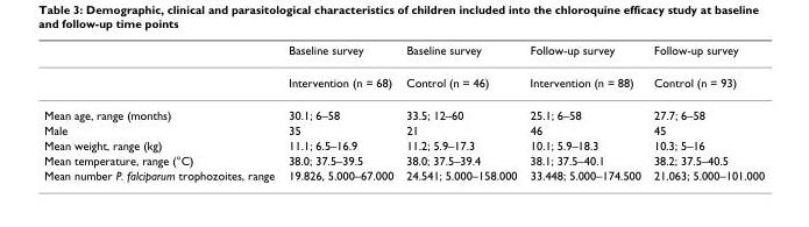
<table><thead><tr><td></td><td>Baseline survey</td><td>Baseline survey</td><td>Follow-up survey</td><td>Follow-up survey</td></tr></thead><tbody><tr><td></td><td>Intervention (n = 68)</td><td>Control (n = 46)</td><td>Intervention (n = 88)</td><td>Control (n = 93)</td></tr><tr><td>Mean age, range (months)</td><td>30.1; 6–58</td><td>33.5; 12–60</td><td>25.1; 6–58</td><td>27.7; 6–58</td></tr><tr><td>Male</td><td>35</td><td>21</td><td>46</td><td>45</td></tr><tr><td>Mean weight, range (kg)</td><td>11.1; 6.5–16.9</td><td>11.2; 5.9–17.3</td><td>10.1; 5.9–18.3</td><td>10.3; 5–16</td></tr><tr><td>Mean temperature, range (°C)</td><td>38.0; 37.5–39.5</td><td>38.0; 37.5–39.4</td><td>38.1; 37.5–40.1</td><td>38.2; 37.5–40.5</td></tr><tr><td>Mean number P. falciparum trophozoites, range</td><td>19.826, 5.000–67.000</td><td>24.541; 5.000–158.000</td><td>33.448; 5.000–174.500</td><td>21.063; 5.000–101.000</td></tr></tbody></table>